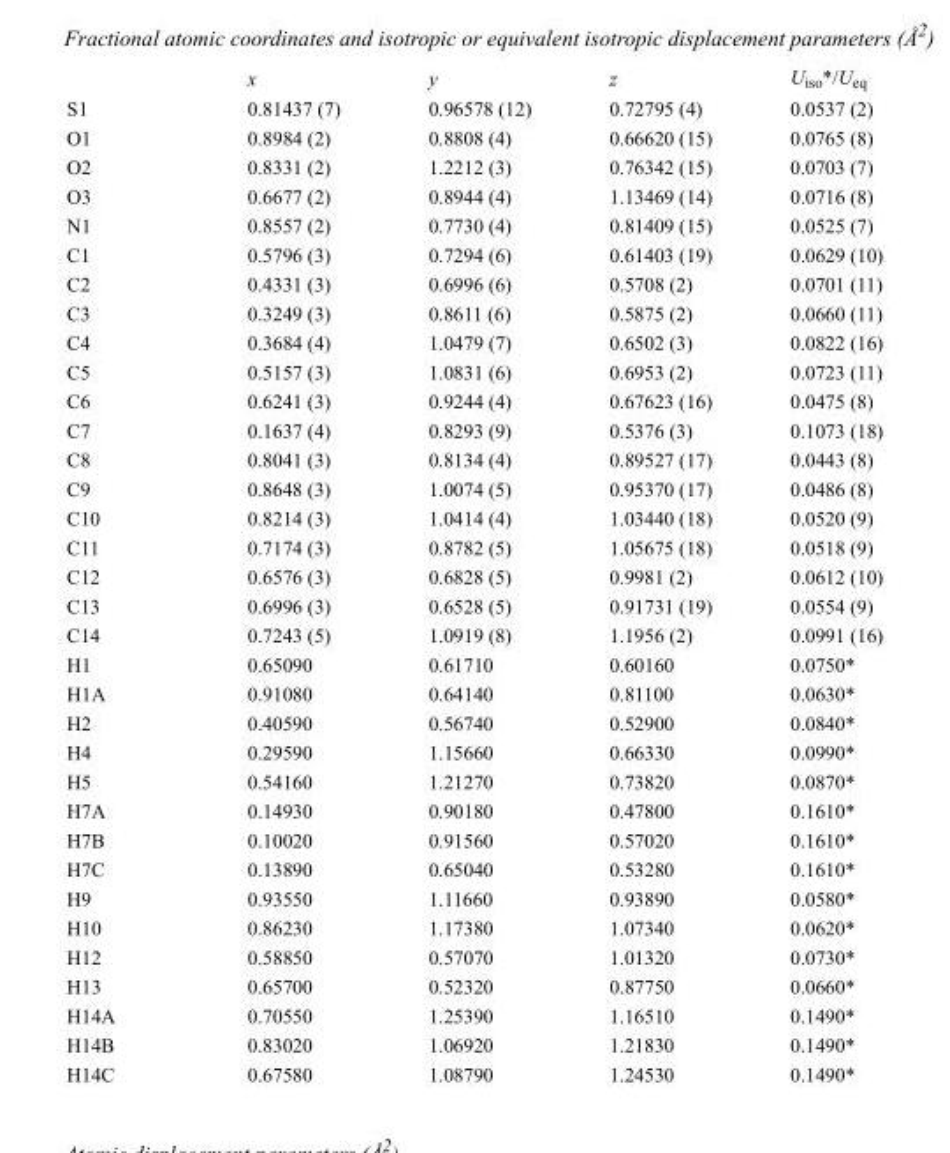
<table><thead><tr><td></td><td>x</td><td>y</td><td>z</td><td>U<sub>iso</sub>*/U<sub>eq</sub></td></tr></thead><tbody><tr><td>S1</td><td>0.81437 (7)</td><td>0.96578 (12)</td><td>0.72795 (4)</td><td>0.0537 (2)</td></tr><tr><td>O1</td><td>0.8984 (2)</td><td>0.8808 (4)</td><td>0.66620 (15)</td><td>0.0765 (8)</td></tr><tr><td>O2</td><td>0.8331 (2)</td><td>1.2212 (3)</td><td>0.76342 (15)</td><td>0.0703 (7)</td></tr><tr><td>O3</td><td>0.6677 (2)</td><td>0.8944 (4)</td><td>1.13469 (14)</td><td>0.0716 (8)</td></tr><tr><td>N1</td><td>0.8557 (2)</td><td>0.7730 (4)</td><td>0.81409 (15)</td><td>0.0525 (7)</td></tr><tr><td>C1</td><td>0.5796 (3)</td><td>0.7294 (6)</td><td>0.61403 (19)</td><td>0.0629 (10)</td></tr><tr><td>C2</td><td>0.4331 (3)</td><td>0.6996 (6)</td><td>0.5708 (2)</td><td>0.0701 (11)</td></tr><tr><td>C3</td><td>0.3249 (3)</td><td>0.8611 (6)</td><td>0.5875 (2)</td><td>0.0660 (11)</td></tr><tr><td>C4</td><td>0.3684 (4)</td><td>1.0479 (7)</td><td>0.6502 (3)</td><td>0.0822 (16)</td></tr><tr><td>C5</td><td>0.5157 (3)</td><td>1.0831 (6)</td><td>0.6953 (2)</td><td>0.0723 (11)</td></tr><tr><td>C6</td><td>0.6241 (3)</td><td>0.9244 (4)</td><td>0.67623 (16)</td><td>0.0475 (8)</td></tr><tr><td>C7</td><td>0.1637 (4)</td><td>0.8293 (9)</td><td>0.5376 (3)</td><td>0.1073 (18)</td></tr><tr><td>C8</td><td>0.8041 (3)</td><td>0.8134 (4)</td><td>0.89527 (17)</td><td>0.0443 (8)</td></tr><tr><td>C9</td><td>0.8648 (3)</td><td>1.0074 (5)</td><td>0.95370 (17)</td><td>0.0486 (8)</td></tr><tr><td>C10</td><td>0.8214 (3)</td><td>1.0414 (4)</td><td>1.03440 (18)</td><td>0.0520 (9)</td></tr><tr><td>C11</td><td>0.7174 (3)</td><td>0.8782 (5)</td><td>1.05675 (18)</td><td>0.0518 (9)</td></tr><tr><td>C12</td><td>0.6576 (3)</td><td>0.6828 (5)</td><td>0.9981 (2)</td><td>0.0612 (10)</td></tr><tr><td>C13</td><td>0.6996 (3)</td><td>0.6528 (5)</td><td>0.91731 (19)</td><td>0.0554 (9)</td></tr><tr><td>C14</td><td>0.7243 (5)</td><td>1.0919 (8)</td><td>1.1956 (2)</td><td>0.0991 (16)</td></tr><tr><td>H1</td><td>0.65090</td><td>0.61710</td><td>0.60160</td><td>0.0750*</td></tr><tr><td>H1A</td><td>0.91080</td><td>0.64140</td><td>0.81100</td><td>0.0630*</td></tr><tr><td>H2</td><td>0.40590</td><td>0.56740</td><td>0.52900</td><td>0.0840*</td></tr><tr><td>H4</td><td>0.29590</td><td>1.15660</td><td>0.66330</td><td>0.0990*</td></tr><tr><td>H5</td><td>0.54160</td><td>1.21270</td><td>0.73820</td><td>0.0870*</td></tr><tr><td>H7A</td><td>0.14930</td><td>0.90180</td><td>0.47800</td><td>0.1610*</td></tr><tr><td>H7B</td><td>0.10020</td><td>0.91560</td><td>0.57020</td><td>0.1610*</td></tr><tr><td>H7C</td><td>0.13890</td><td>0.65040</td><td>0.53280</td><td>0.1610*</td></tr><tr><td>H9</td><td>0.93550</td><td>1.11660</td><td>0.93890</td><td>0.0580*</td></tr><tr><td>H10</td><td>0.86230</td><td>1.17380</td><td>1.07340</td><td>0.0620*</td></tr><tr><td>H12</td><td>0.58850</td><td>0.57070</td><td>1.01320</td><td>0.0730*</td></tr><tr><td>H13</td><td>0.65700</td><td>0.52320</td><td>0.87750</td><td>0.0660*</td></tr><tr><td>H14A</td><td>0.70550</td><td>1.25390</td><td>1.16510</td><td>0.1490*</td></tr><tr><td>H14B</td><td>0.83020</td><td>1.06920</td><td>1.21830</td><td>0.1490*</td></tr><tr><td>H14C</td><td>0.67580</td><td>1.08790</td><td>1.24530</td><td>0.1490*</td></tr></tbody></table>